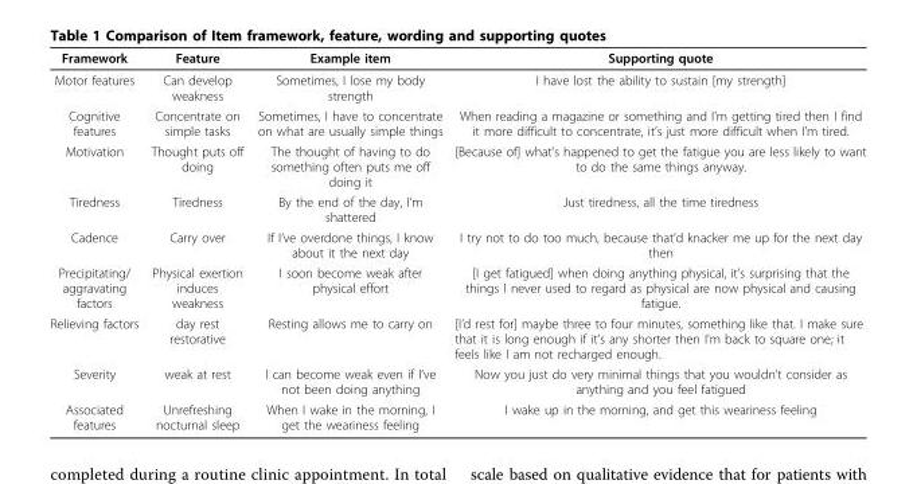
<table><thead><tr><td>Framework</td><td>Feature</td><td>Example item</td><td>Supporting quote</td></tr></thead><tbody><tr><td>Motor features</td><td>Can develop weakness</td><td>Sometimes, I lose my body strength</td><td>I have lost the ability to sustain [my strength]</td></tr><tr><td>Cognitive features</td><td>Concentrate on simple tasks</td><td>Sometimes, I have to concentrate on what are usually simple things</td><td>When reading a magazine or something and I’m getting tired then I find it more difficult to concentrate, it’s just more difficult when I’m tired.</td></tr><tr><td>Motivation</td><td>Thought puts off doing</td><td>The thought of having to do something often puts me off doing it</td><td>[Because of] what’s happened to get the fatigue you are less likely to want to do the same things anyway.</td></tr><tr><td>Tiredness</td><td>Tiredness</td><td>By the end of the day, I’m shattered</td><td>Just tiredness, all the time tiredness</td></tr><tr><td>Cadence</td><td>Carry over</td><td>If I’ve overdone things, I know about it the next day</td><td>I try not to do too much, because that’d knacker me up for the next day then</td></tr><tr><td>Precipitating/ aggravating factors</td><td>Physical exertion induces weakness</td><td>I soon become weak after physical effort</td><td>[I get fatigued] when doing anything physical, it’s surprising that the things I never used to regard as physical are now physical and causing fatigue.</td></tr><tr><td>Relieving factors</td><td>day rest restorative</td><td>Resting allows me to carry on</td><td>[I’d rest for] maybe three to four minutes, something like that. I make sure that it is long enough if it’s any shorter then I’m back to square one; it feels like I am not recharged enough.</td></tr><tr><td>Severity</td><td>weak at rest</td><td>I can become weak even if I’ve not been doing anything</td><td>Now you just do very minimal things that you wouldn’t consider as anything and you feel fatigued</td></tr><tr><td>Associated features</td><td>Unrefreshing nocturnal sleep</td><td>When I wake in the morning, I get the weariness feeling</td><td>I wake up in the morning, and get this weariness feeling</td></tr></tbody></table>